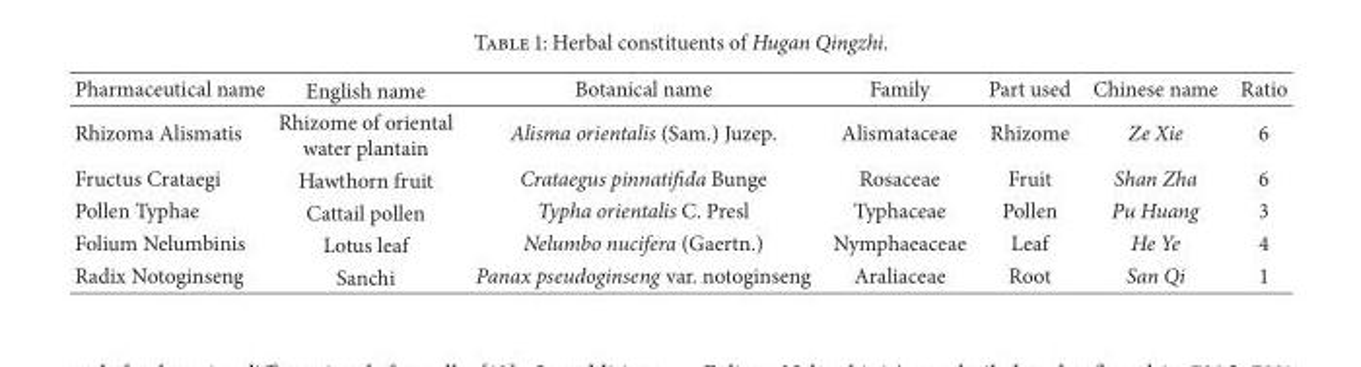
<table><thead><tr><td>Pharmaceutical name</td><td>English name</td><td>Botanical name</td><td>Family</td><td>Part used</td><td>Chinese name</td><td>Ratio</td></tr></thead><tbody><tr><td>Rhizoma Alismatis</td><td>Rhizome of oriental water plantain</td><td>Alisma orientalis (Sam.) Juzep.</td><td>Alismataceae</td><td>Rhizome</td><td>Ze Xie</td><td>6</td></tr><tr><td>Fructus Crataegi</td><td>Hawthorn fruit</td><td>Crataegus pinnatifida Bunge</td><td>Rosaceae</td><td>Fruit</td><td>Shan Zha</td><td>6</td></tr><tr><td>Pollen Typhae</td><td>Cattail pollen</td><td>Typha orientalis C. Presl</td><td>Typhaceae</td><td>Pollen</td><td>Pu Huang</td><td>3</td></tr><tr><td>Folium Nelumbinis</td><td>Lotus leaf</td><td>Nelumbo nucifera (Gaertn.)</td><td>Nymphaeaceae</td><td>Leaf</td><td>He Ye</td><td>4</td></tr><tr><td>Radix Notoginseng</td><td>Sanchi</td><td>Panax pseudoginseng var. notoginseng</td><td>Araliaceae</td><td>Root</td><td>San Qi</td><td>1</td></tr></tbody></table>